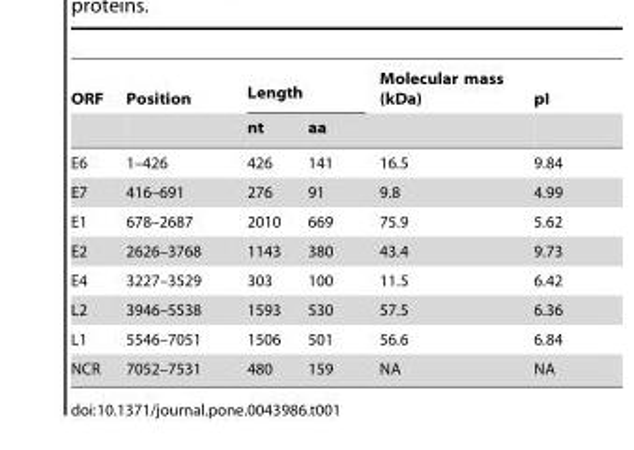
<table><thead><tr><td rowspan="2">ORF</td><td rowspan="2">Position</td><td colspan="2">Length</td><td rowspan="2">Molecular mass (kDa)</td><td rowspan="2">pI</td></tr><tr><td>nt</td><td>aa</td></tr></thead><tbody><tr><td>E6</td><td>1–426</td><td>426</td><td>141</td><td>16.5</td><td>9.84</td></tr><tr><td>E7</td><td>416–691</td><td>276</td><td>91</td><td>9.8</td><td>4.99</td></tr><tr><td>E1</td><td>678–2687</td><td>2010</td><td>669</td><td>75.9</td><td>5.62</td></tr><tr><td>E2</td><td>2626–3768</td><td>1143</td><td>380</td><td>43.4</td><td>9.73</td></tr><tr><td>E4</td><td>3227–3529</td><td>303</td><td>100</td><td>11.5</td><td>6.42</td></tr><tr><td>L2</td><td>3946–5538</td><td>1593</td><td>530</td><td>57.5</td><td>6.36</td></tr><tr><td>L1</td><td>5546–7051</td><td>1506</td><td>501</td><td>56.6</td><td>6.84</td></tr><tr><td>NCR</td><td>7052–7531</td><td>480</td><td>159</td><td>NA</td><td>NA</td></tr></tbody></table>